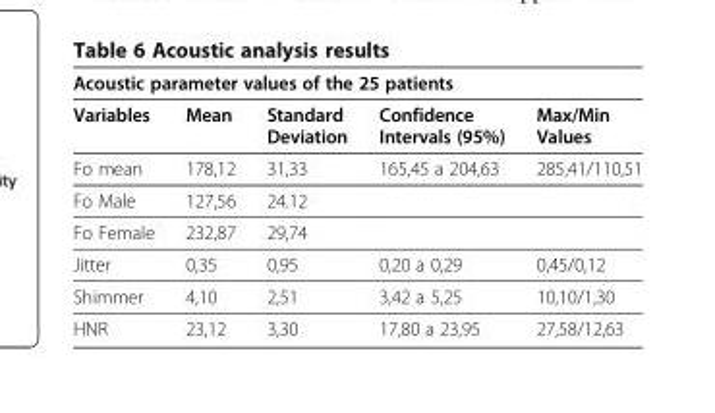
<table><thead><tr><td colspan="5">Acoustic parameter values of the 25 patients</td></tr><tr><td>Variables</td><td>Mean</td><td>Standard Deviation</td><td>Confidence Intervals (95%)</td><td>Max/Min Values</td></tr></thead><tbody><tr><td>Fo mean</td><td>178,12</td><td>31,33</td><td>165,45 a 204,63</td><td>285,41/110,51</td></tr><tr><td>Fo Male</td><td>127,56</td><td>24.12</td><td></td><td></td></tr><tr><td>Fo Female</td><td>232,87</td><td>29,74</td><td></td><td></td></tr><tr><td>Jitter</td><td>0,35</td><td>0,95</td><td>0,20 a 0,29</td><td>0,45/0,12</td></tr><tr><td>Shimmer</td><td>4,10</td><td>2,51</td><td>3,42 a 5,25</td><td>10,10/1,30</td></tr><tr><td>HNR</td><td>23,12</td><td>3,30</td><td>17,80 a 23,95</td><td>27,58/12,63</td></tr></tbody></table>